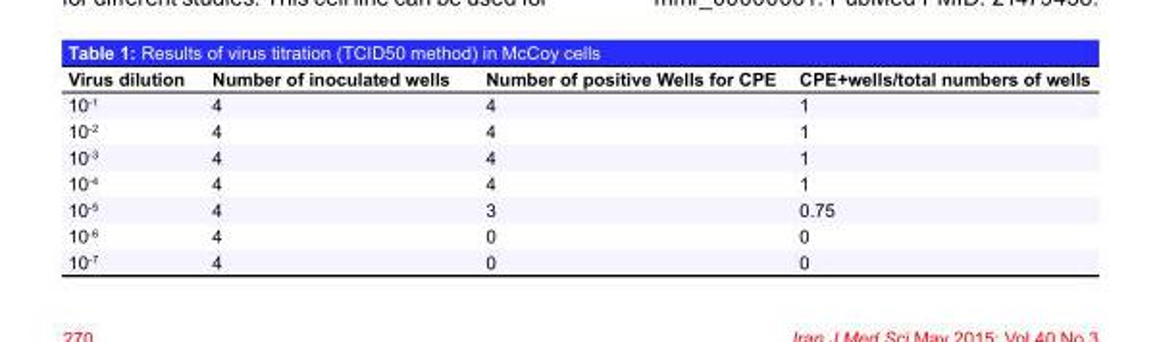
<table><thead><tr><td>Virus dilution</td><td>Number of inoculated wells</td><td>Number of positive Wells for CPE</td><td>CPE+wells/total numbers of wells</td></tr></thead><tbody><tr><td>10<sup>-1</sup></td><td>4</td><td>4</td><td>1</td></tr><tr><td>10<sup>-2</sup></td><td>4</td><td>4</td><td>1</td></tr><tr><td>10<sup>-3</sup></td><td>4</td><td>4</td><td>1</td></tr><tr><td>10<sup>-4</sup></td><td>4</td><td>4</td><td>1</td></tr><tr><td>10<sup>-5</sup></td><td>4</td><td>3</td><td>0.75</td></tr><tr><td>10<sup>-6</sup></td><td>4</td><td>0</td><td>0</td></tr><tr><td>10<sup>-7</sup></td><td>4</td><td>0</td><td>0</td></tr></tbody></table>